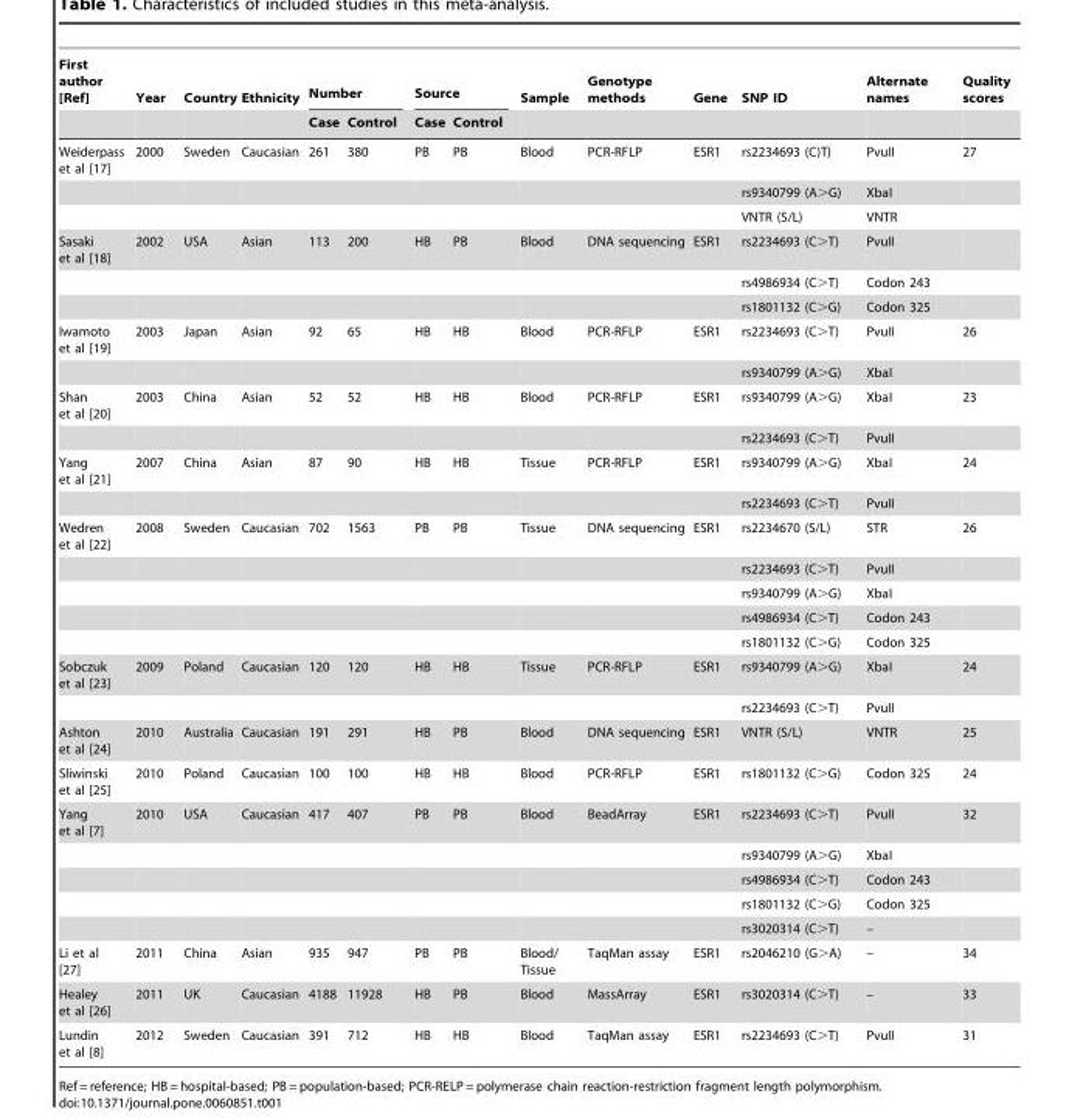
<table><thead><tr><td rowspan="2">First author [Ref]</td><td rowspan="2">Year</td><td rowspan="2">Country</td><td rowspan="2">Ethnicity</td><td colspan="2">Number</td><td colspan="2">Source</td><td rowspan="2">Sample</td><td rowspan="2">Genotype methods</td><td rowspan="2">Gene</td><td rowspan="2">SNP ID</td><td rowspan="2">Alternate names</td><td rowspan="2">Quality scores</td></tr><tr><td>Case</td><td>Control</td><td>Case</td><td>Control</td></tr></thead><tbody><tr><td rowspan="3">Weiderpass et al [17]</td><td>2000</td><td>Sweden</td><td>Caucasian</td><td>261</td><td>380</td><td>PB</td><td>PB</td><td>Blood</td><td>PCR-RFLP</td><td>ESR1</td><td>rs2234693 (C)T)</td><td>PvuII</td><td>27</td></tr><tr><td></td><td></td><td></td><td></td><td></td><td></td><td></td><td></td><td></td><td></td><td>rs9340799 (A&gt;G)</td><td>XbaI</td><td></td></tr><tr><td></td><td></td><td></td><td></td><td></td><td></td><td></td><td></td><td></td><td></td><td>VNTR (S/L)</td><td>VNTR</td><td></td></tr><tr><td rowspan="3">Sasaki et al [18]</td><td>2002</td><td>USA</td><td>Asian</td><td>113</td><td>200</td><td>HB</td><td>PB</td><td>Blood</td><td>DNA sequencing</td><td>ESR1</td><td>rs2234693 (C&gt;T)</td><td>PvuII</td><td></td></tr><tr><td></td><td></td><td></td><td></td><td></td><td></td><td></td><td></td><td></td><td></td><td>rs4986934 (C&gt;T)</td><td>Codon 243</td><td></td></tr><tr><td></td><td></td><td></td><td></td><td></td><td></td><td></td><td></td><td></td><td></td><td>rs1801132 (C&gt;G)</td><td>Codon 325</td><td></td></tr><tr><td rowspan="2">Iwamoto et al [19]</td><td>2003</td><td>Japan</td><td>Asian</td><td>92</td><td>65</td><td>HB</td><td>HB</td><td>Blood</td><td>PCR-RFLP</td><td>ESR1</td><td>rs2234693 (C&gt;T)</td><td>PvuII</td><td>26</td></tr><tr><td></td><td></td><td></td><td></td><td></td><td></td><td></td><td></td><td></td><td></td><td>rs9340799 (A&gt;G)</td><td>XbaI</td><td></td></tr><tr><td rowspan="2">Shan et al [20]</td><td>2003</td><td>China</td><td>Asian</td><td>52</td><td>52</td><td>HB</td><td>HB</td><td>Blood</td><td>PCR-RFLP</td><td>ESR1</td><td>rs9340799 (A&gt;G)</td><td>XbaI</td><td>23</td></tr><tr><td></td><td></td><td></td><td></td><td></td><td></td><td></td><td></td><td></td><td></td><td>rs2234693 (C&gt;T)</td><td>PvuII</td><td></td></tr><tr><td rowspan="2">Yang et al [21]</td><td>2007</td><td>China</td><td>Asian</td><td>87</td><td>90</td><td>HB</td><td>HB</td><td>Tissue</td><td>PCR-RFLP</td><td>ESR1</td><td>rs9340799 (A&gt;G)</td><td>XbaI</td><td>24</td></tr><tr><td></td><td></td><td></td><td></td><td></td><td></td><td></td><td></td><td></td><td></td><td>rs2234693 (C&gt;T)</td><td>PvuII</td><td></td></tr><tr><td rowspan="5">Wedren et al [22]</td><td>2008</td><td>Sweden</td><td>Caucasian</td><td>702</td><td>1563</td><td>PB</td><td>PB</td><td>Tissue</td><td>DNA sequencing</td><td>ESR1</td><td>rs2234670 (S/L)</td><td>STR</td><td>26</td></tr><tr><td></td><td></td><td></td><td></td><td></td><td></td><td></td><td></td><td></td><td></td><td>rs2234693 (C&gt;T)</td><td>PvuII</td><td></td></tr><tr><td></td><td></td><td></td><td></td><td></td><td></td><td></td><td></td><td></td><td></td><td>rs9340799 (A&gt;G)</td><td>XbaI</td><td></td></tr><tr><td></td><td></td><td></td><td></td><td></td><td></td><td></td><td></td><td></td><td></td><td>rs4986934 (C&gt;T)</td><td>Codon 243</td><td></td></tr><tr><td></td><td></td><td></td><td></td><td></td><td></td><td></td><td></td><td></td><td></td><td>rs1801132 (C&gt;G)</td><td>Codon 325</td><td></td></tr><tr><td rowspan="2">Sobczuk et al [23]</td><td>2009</td><td>Poland</td><td>Caucasian</td><td>120</td><td>120</td><td>HB</td><td>HB</td><td>Tissue</td><td>PCR-RFLP</td><td>ESR1</td><td>rs9340799 (A&gt;G)</td><td>XbaI</td><td>24</td></tr><tr><td></td><td></td><td></td><td></td><td></td><td></td><td></td><td></td><td></td><td></td><td>rs2234693 (C&gt;T)</td><td>PvuII</td><td></td></tr><tr><td>Ashton et al [24]</td><td>2010</td><td>Australia</td><td>Caucasian</td><td>191</td><td>291</td><td>HB</td><td>PB</td><td>Blood</td><td>DNA sequencing</td><td>ESR1</td><td>VNTR (S/L)</td><td>VNTR</td><td>25</td></tr><tr><td>Sliwinski et al [25]</td><td>2010</td><td>Poland</td><td>Caucasian</td><td>100</td><td>100</td><td>HB</td><td>HB</td><td>Blood</td><td>PCR-RFLP</td><td>ESR1</td><td>rs1801132 (C&gt;G)</td><td>Codon 325</td><td>24</td></tr><tr><td rowspan="5">Yang et al [7]</td><td>2010</td><td>USA</td><td>Caucasian</td><td>417</td><td>407</td><td>PB</td><td>PB</td><td>Blood</td><td>BeadArray</td><td>ESR1</td><td>rs2234693 (C&gt;T)</td><td>PvuII</td><td>32</td></tr><tr><td></td><td></td><td></td><td></td><td></td><td></td><td></td><td></td><td></td><td></td><td>rs9340799 (A&gt;G)</td><td>XbaI</td><td></td></tr><tr><td></td><td></td><td></td><td></td><td></td><td></td><td></td><td></td><td></td><td></td><td>rs4986934 (C&gt;T)</td><td>Codon 243</td><td></td></tr><tr><td></td><td></td><td></td><td></td><td></td><td></td><td></td><td></td><td></td><td></td><td>rs1801132 (C&gt;G)</td><td>Codon 325</td><td></td></tr><tr><td></td><td></td><td></td><td></td><td></td><td></td><td></td><td></td><td></td><td></td><td>rs3020314 (C&gt;T)</td><td>–</td><td></td></tr><tr><td>Li et al [27]</td><td>2011</td><td>China</td><td>Asian</td><td>935</td><td>947</td><td>PB</td><td>PB</td><td>Blood/ Tissue</td><td>TaqMan assay</td><td>ESR1</td><td>rs2046210 (G&gt;A)</td><td>–</td><td>34</td></tr><tr><td>Healey et al [26]</td><td>2011</td><td>UK</td><td>Caucasian</td><td>4188</td><td>11928</td><td>HB</td><td>PB</td><td>Blood</td><td>MassArray</td><td>ESR1</td><td>rs3020314 (C&gt;T)</td><td>–</td><td>33</td></tr><tr><td>Lundin et al [8]</td><td>2012</td><td>Sweden</td><td>Caucasian</td><td>391</td><td>712</td><td>HB</td><td>HB</td><td>Blood</td><td>TaqMan assay</td><td>ESR1</td><td>rs2234693 (C&gt;T)</td><td>PvuII</td><td>31</td></tr></tbody></table>